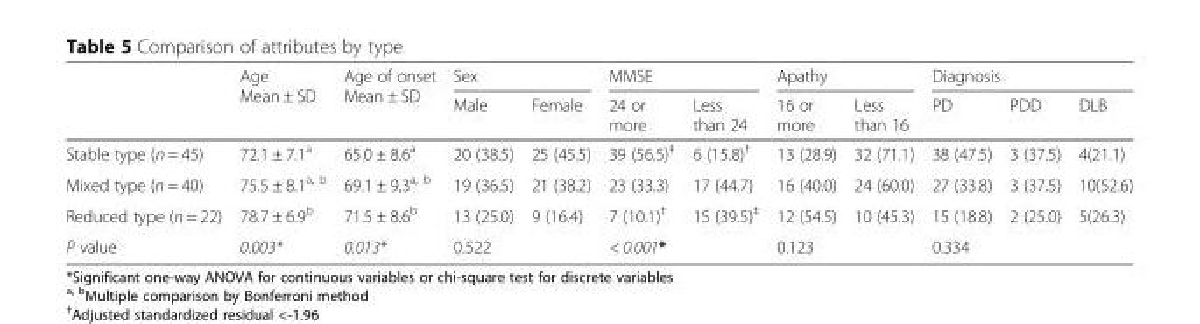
<table><thead><tr><td rowspan="2"></td><td rowspan="2">Age Mean ± SD</td><td rowspan="2">Age of onset Mean ± SD</td><td colspan="2">Sex</td><td colspan="2">MMSE</td><td colspan="2">Apathy</td><td colspan="3">Diagnosis</td></tr><tr><td>Male</td><td>Female</td><td>24 or more</td><td>Less than 24</td><td>16 or more</td><td>Less than 16</td><td>PD</td><td>PDD</td><td>DLB</td></tr></thead><tbody><tr><td>Stable type (n = 45)</td><td>72.1 ± 7.1<sup>a</sup></td><td>65.0 ± 8.6<sup>a</sup></td><td>20 (38.5)</td><td>25 (45.5)</td><td>39 (56.5)<sup>‡</sup></td><td>6 (15.8)<sup>†</sup></td><td>13 (28.9)</td><td>32 (71.1)</td><td>38 (47.5)</td><td>3 (37.5)</td><td>4(21.1)</td></tr><tr><td>Mixed type (n = 40)</td><td>75.5 ± 8.1<sup>a, b</sup></td><td>69.1 ± 9.3<sup>a, b</sup></td><td>19 (36.5)</td><td>21 (38.2)</td><td>23 (33.3)</td><td>17 (44.7)</td><td>16 (40.0)</td><td>24 (60.0)</td><td>27 (33.8)</td><td>3 (37.5)</td><td>10(52.6)</td></tr><tr><td>Reduced type (n = 22)</td><td>78.7 ± 6.9<sup>b</sup></td><td>71.5 ± 8.6<sup>b</sup></td><td>13 (25.0)</td><td>9 (16.4)</td><td>7 (10.1)<sup>†</sup></td><td>15 (39.5)<sup>‡</sup></td><td>12 (54.5)</td><td>10 (45.3)</td><td>15 (18.8)</td><td>2 (25.0)</td><td>5(26.3)</td></tr><tr><td>P value</td><td>0.003*</td><td>0.013*</td><td colspan="2">0.522</td><td colspan="2">&lt; 0.001*</td><td colspan="2">0.123</td><td colspan="3">0.334</td></tr></tbody></table>